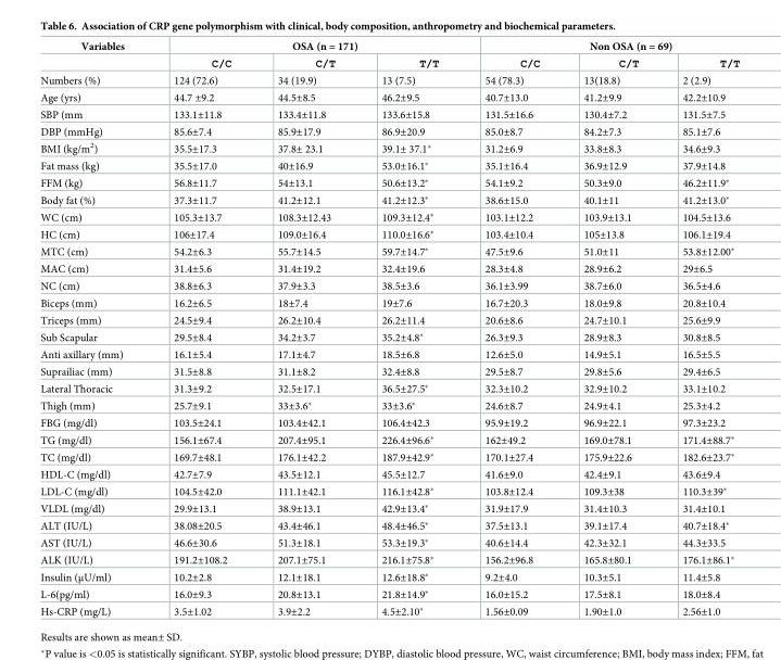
<table><thead><tr><td rowspan="2">Variables</td><td colspan="3">OSA (n = 171)</td><td colspan="3">Non OSA (n = 69)</td></tr><tr><td>C/C</td><td>C/T</td><td>T/T</td><td>C/C</td><td>C/T</td><td>T/T</td></tr></thead><tbody><tr><td>Numbers (%)</td><td>124 (72.6)</td><td>34 (19.9)</td><td>13 (7.5)</td><td>54 (78.3)</td><td>13(18.8)</td><td>2 (2.9)</td></tr><tr><td>Age (yrs)</td><td>44.7 ±9.2</td><td>44.5±8.5</td><td>46.2±9.5</td><td>40.7±13.0</td><td>41.2±9.9</td><td>42.2±10.9</td></tr><tr><td>SBP (mm</td><td>133.1±11.8</td><td>133.4±11.8</td><td>133.6±15.8</td><td>131.5±16.6</td><td>130.4±7.2</td><td>131.5±7.5</td></tr><tr><td>DBP (mmHg)</td><td>85.6±7.4</td><td>85.9±17.9</td><td>86.9±20.9</td><td>85.0±8.7</td><td>84.2±7.3</td><td>85.1±7.6</td></tr><tr><td>BMI (kg/m<sup>2</sup>)</td><td>35.5±17.3</td><td>37.8± 23.1</td><td>39.1± 37.1*</td><td>31.2±6.9</td><td>33.8±8.3</td><td>34.6±9.3</td></tr><tr><td>Fat mass (kg)</td><td>35.5±17.0</td><td>40±16.9</td><td>53.0±16.1*</td><td>35.1±16.4</td><td>36.9±12.9</td><td>37.9±14.8</td></tr><tr><td>FFM (kg)</td><td>56.8±11.7</td><td>54±13.1</td><td>50.6±13.2*</td><td>54.1±9.2</td><td>50.3±9.0</td><td>46.2±11.9*</td></tr><tr><td>Body fat (%)</td><td>37.3±11.7</td><td>41.2±12.1</td><td>41.2±12.3*</td><td>38.6±15.0</td><td>40.1±11</td><td>41.2±13.0*</td></tr><tr><td>WC (cm)</td><td>105.3±13.7</td><td>108.3±12.43</td><td>109.3±12.4*</td><td>103.1±12.2</td><td>103.9±13.1</td><td>104.5±13.6</td></tr><tr><td>HC (cm)</td><td>106±17.4</td><td>109.0±16.4</td><td>110.0±16.6*</td><td>103.4±10.4</td><td>105±13.8</td><td>106.1±19.4</td></tr><tr><td>MTC (cm)</td><td>54.2±6.3</td><td>55.7±14.5</td><td>59.7±14.7*</td><td>47.5±9.6</td><td>51.0±11</td><td>53.8±12.00*</td></tr><tr><td>MAC (cm)</td><td>31.4±5.6</td><td>31.4±19.2</td><td>32.4±19.6</td><td>28.3±4.8</td><td>28.9±6.2</td><td>29±6.5</td></tr><tr><td>NC (cm)</td><td>38.8±6.3</td><td>37.9±3.3</td><td>38.5±3.6</td><td>36.1±3.99</td><td>38.7±6.0</td><td>36.5±4.6</td></tr><tr><td>Biceps (mm)</td><td>16.2±6.5</td><td>18±7.4</td><td>19±7.6</td><td>16.7±20.3</td><td>18.0±9.8</td><td>20.8±10.4</td></tr><tr><td>Triceps (mm)</td><td>24.5±9.4</td><td>26.2±10.4</td><td>26.2±11.4</td><td>20.6±8.6</td><td>24.7±10.1</td><td>25.6±9.9</td></tr><tr><td>Sub Scapular</td><td>29.5±8.4</td><td>34.2±3.7</td><td>35.2±4.8*</td><td>26.3±9.3</td><td>28.9±8.3</td><td>30.8±8.5</td></tr><tr><td>Anti axillary (mm)</td><td>16.1±5.4</td><td>17.1±4.7</td><td>18.5±6.8</td><td>12.6±5.0</td><td>14.9±5.1</td><td>16.5±5.5</td></tr><tr><td>Suprailiac (mm)</td><td>31.5±8.8</td><td>31.1±8.2</td><td>32.4±8.8</td><td>29.5±8.7</td><td>29.8±5.6</td><td>29.4±6.5</td></tr><tr><td>Lateral Thoracic</td><td>31.3±9.2</td><td>32.5±17.1</td><td>36.5±27.5*</td><td>32.3±10.2</td><td>32.9±10.2</td><td>33.1±10.2</td></tr><tr><td>Thigh (mm)</td><td>25.7±9.1</td><td>33±3.6*</td><td>33±3.6*</td><td>24.6±8.7</td><td>24.9±4.1</td><td>25.3±4.2</td></tr><tr><td>FBG (mg/dl)</td><td>103.5±24.1</td><td>103.4±42.1</td><td>106.4±42.3</td><td>95.9±19.2</td><td>96.9±22.1</td><td>97.3±23.2</td></tr><tr><td>TG (mg/dl)</td><td>156.1±67.4</td><td>207.4±95.1</td><td>226.4±96.6*</td><td>162±49.2</td><td>169.0±78.1</td><td>171.4±88.7*</td></tr><tr><td>TC (mg/dl)</td><td>169.7±48.1</td><td>176.1±42.2</td><td>187.9±42.9*</td><td>170.1±27.4</td><td>175.9±22.6</td><td>182.6±23.7*</td></tr><tr><td>HDL-C (mg/dl)</td><td>42.7±7.9</td><td>43.5±12.1</td><td>45.5±12.7</td><td>41.6±9.0</td><td>42.4±9.1</td><td>43.6±9.4</td></tr><tr><td>LDL-C (mg/dl)</td><td>104.5±42.0</td><td>111.1±42.1</td><td>116.1±42.8*</td><td>103.8±12.4</td><td>109.3±38</td><td>110.3±39*</td></tr><tr><td>VLDL (mg/dl)</td><td>29.9±13.1</td><td>38.9±13.1</td><td>42.9±13.4*</td><td>31.9±17.9</td><td>31.4±10.3</td><td>31.4±10.1</td></tr><tr><td>ALT (IU/L)</td><td>38.08±20.5</td><td>43.4±46.1</td><td>48.4±46.5*</td><td>37.5±13.1</td><td>39.1±17.4</td><td>40.7±18.4*</td></tr><tr><td>AST (IU/L)</td><td>46.6±30.6</td><td>51.3±18.1</td><td>53.3±19.3*</td><td>40.6±14.4</td><td>42.3±32.1</td><td>44.3±33.5</td></tr><tr><td>ALK (IU/L)</td><td>191.2±108.2</td><td>207.1±75.1</td><td>216.1±75.8*</td><td>156.2±96.8</td><td>165.8±80.1</td><td>176.1±86.1*</td></tr><tr><td>Insulin (μU/ml)</td><td>10.2±2.8</td><td>12.1±18.1</td><td>12.6±18.8*</td><td>9.2±4.0</td><td>10.3±5.1</td><td>11.4±5.8</td></tr><tr><td>L-6(pg/ml)</td><td>16.0±9.3</td><td>20.8±13.1</td><td>21.8±14.9*</td><td>16.0±15.2</td><td>17.5±8.1</td><td>18.0±8.4</td></tr><tr><td>Hs-CRP (mg/L)</td><td>3.5±1.02</td><td>3.9±2.2</td><td>4.5±2.10*</td><td>1.56±0.09</td><td>1.90±1.0</td><td>2.56±1.0</td></tr></tbody></table>